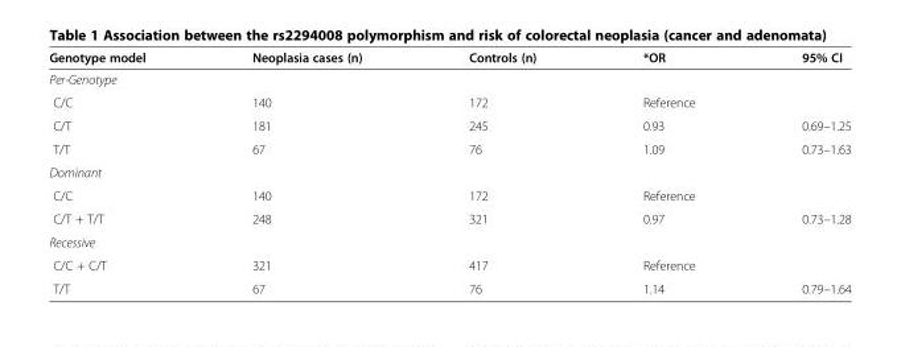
<table><thead><tr><td>Genotype model</td><td>Neoplasia cases (n)</td><td>Controls (n)</td><td>*OR</td><td>95% CI</td></tr></thead><tbody><tr><td colspan="5">Per-Genotype</td></tr><tr><td>C/C</td><td>140</td><td>172</td><td>Reference</td><td></td></tr><tr><td>C/T</td><td>181</td><td>245</td><td>0.93</td><td>0.69–1.25</td></tr><tr><td>T/T</td><td>67</td><td>76</td><td>1.09</td><td>0.73–1.63</td></tr><tr><td colspan="5">Dominant</td></tr><tr><td>C/C</td><td>140</td><td>172</td><td>Reference</td><td></td></tr><tr><td>C/T + T/T</td><td>248</td><td>321</td><td>0.97</td><td>0.73–1.28</td></tr><tr><td colspan="5">Recessive</td></tr><tr><td>C/C + C/T</td><td>321</td><td>417</td><td>Reference</td><td></td></tr><tr><td>T/T</td><td>67</td><td>76</td><td>1.14</td><td>0.79–1.64</td></tr></tbody></table>